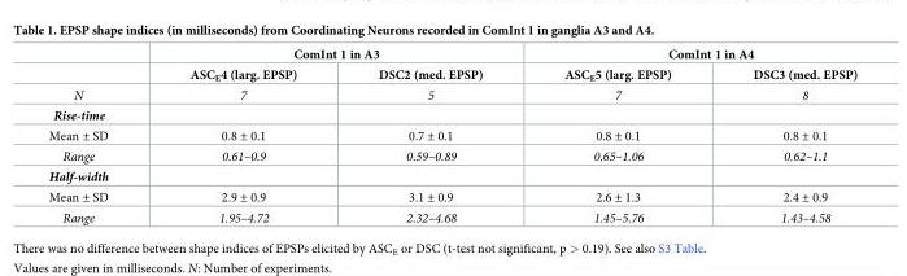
<table><thead><tr><td rowspan="2"></td><td colspan="2">ComInt 1 in A3</td><td colspan="2">ComInt 1 in A4</td></tr><tr><td>ASC<sub>E</sub>4 (larg. EPSP)</td><td>DSC2 (med. EPSP)</td><td>ASC<sub>E</sub>5 (larg. EPSP)</td><td>DSC3 (med. EPSP)</td></tr></thead><tbody><tr><td>N</td><td>7</td><td>5</td><td>7</td><td>8</td></tr><tr><td colspan="5">Rise-time</td></tr><tr><td>Mean ± SD</td><td>0.8 ± 0.1</td><td>0.7 ± 0.1</td><td>0.8 ± 0.1</td><td>0.8 ± 0.1</td></tr><tr><td>Range</td><td>0.61–0.9</td><td>0.59–0.89</td><td>0.65–1.06</td><td>0.62–1.1</td></tr><tr><td colspan="5">Half-width</td></tr><tr><td>Mean ± SD</td><td>2.9 ± 0.9</td><td>3.1 ± 0.9</td><td>2.6 ± 1.3</td><td>2.4 ± 0.9</td></tr><tr><td>Range</td><td>1.95–4.72</td><td>2.32–4.68</td><td>1.45–5.76</td><td>1.43–4.58</td></tr></tbody></table>